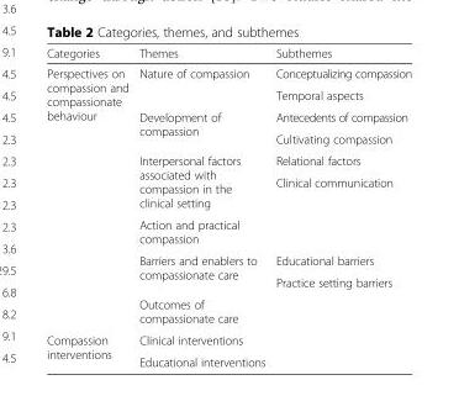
<table><thead><tr><td>Categories</td><td>Themes</td><td>Subthemes</td></tr></thead><tbody><tr><td rowspan="10">Perspectives on compassion and compassionate behaviour</td><td rowspan="2">Nature of compassion</td><td>Conceptualizing compassion</td></tr><tr><td>Temporal aspects</td></tr><tr><td rowspan="2">Development of compassion</td><td>Antecedents of compassion</td></tr><tr><td>Cultivating compassion</td></tr><tr><td rowspan="2">Interpersonal factors associated with compassion in the clinical setting</td><td>Relational factors</td></tr><tr><td>Clinical communication</td></tr><tr><td>Action and practical compassion</td><td></td></tr><tr><td rowspan="2">Barriers and enablers to compassionate care</td><td>Educational barriers</td></tr><tr><td>Practice setting barriers</td></tr><tr><td>Outcomes of compassionate care</td><td></td></tr><tr><td rowspan="2">Compassion interventions</td><td>Clinical interventions</td><td></td></tr><tr><td>Educational interventions</td><td></td></tr></tbody></table>